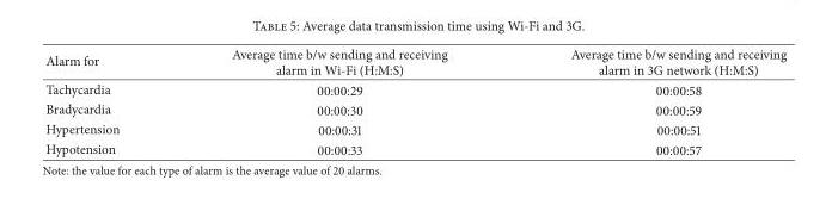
<table><thead><tr><td>Alarm for</td><td>Average time b/w sending and receiving alarm in Wi-Fi (H:M:S)</td><td>Average time b/w sending and receiving alarm in 3G network (H:M:S)</td></tr></thead><tbody><tr><td>Tachycardia</td><td>00:00:29</td><td>00:00:58</td></tr><tr><td>Bradycardia</td><td>00:00:30</td><td>00:00:59</td></tr><tr><td>Hypertension</td><td>00:00:31</td><td>00:00:51</td></tr><tr><td>Hypotension</td><td>00:00:33</td><td>00:00:57</td></tr></tbody></table>